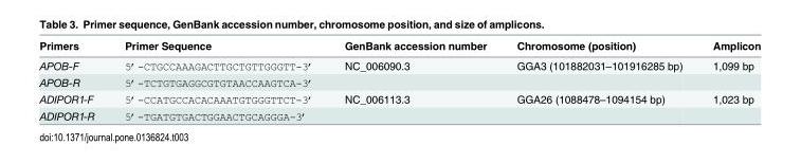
<table><thead><tr><td>Primers</td><td>Primer Sequence</td><td>GenBank accession number</td><td>Chromosome (position)</td><td>Amplicon</td></tr></thead><tbody><tr><td>APOB-F</td><td>5’-CTGCCAAAGACTTGCTGTTGGGTT-3’</td><td>NC_006090.3</td><td>GGA3 (101882031–101916285 bp)</td><td>1,099 bp</td></tr><tr><td>APOB-R</td><td>5’-TCTGTGAGGCGTGTAACCAAGTCA-3’</td><td></td><td></td><td></td></tr><tr><td>ADIPOR1-F</td><td>5’-CCATGCCACACAAATGTGGGTTCT-3’</td><td>NC_006113.3</td><td>GGA26 (1088478–1094154 bp)</td><td>1,023 bp</td></tr><tr><td>ADIPOR1-R</td><td>5’-TGATGTGACTGGAACTGCAGGGA-3’</td><td></td><td></td><td></td></tr></tbody></table>